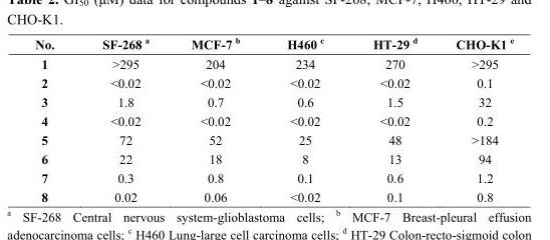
<table><thead><tr><td>No.</td><td>SF-268 a</td><td>MCF-7 b</td><td>H460 c</td><td>HT-29 d</td><td>CHO-K1 e</td></tr></thead><tbody><tr><td>1</td><td>&gt;295</td><td>204</td><td>234</td><td>270</td><td>&gt;295</td></tr><tr><td>2</td><td>&lt;0.02</td><td>&lt;0.02</td><td>&lt;0.02</td><td>&lt;0.02</td><td>0.1</td></tr><tr><td>3</td><td>1.8</td><td>0.7</td><td>0.6</td><td>1.5</td><td>32</td></tr><tr><td>4</td><td>&lt;0.02</td><td>&lt;0.02</td><td>&lt;0.02</td><td>&lt;0.02</td><td>0.2</td></tr><tr><td>5</td><td>72</td><td>52</td><td>25</td><td>48</td><td>&gt;184</td></tr><tr><td>6</td><td>22</td><td>18</td><td>8</td><td>13</td><td>94</td></tr><tr><td>7</td><td>0.3</td><td>0.8</td><td>0.1</td><td>0.6</td><td>1.2</td></tr><tr><td>8</td><td>0.02</td><td>0.06</td><td>&lt;0.02</td><td>0.1</td><td>0.8</td></tr></tbody></table>